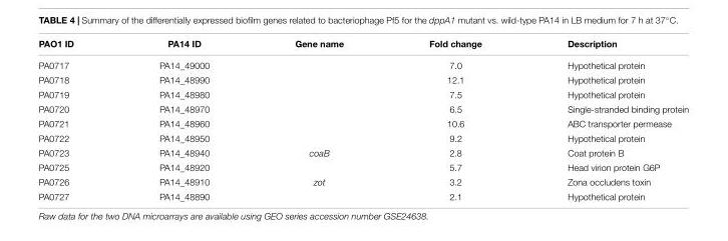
<table><thead><tr><td>PAO1 ID</td><td>PA14 ID</td><td>Gene name</td><td>Fold change</td><td>Description</td></tr></thead><tbody><tr><td>PA0717</td><td>PA14_49000</td><td></td><td>7.0</td><td>Hypothetical protein</td></tr><tr><td>PA0718</td><td>PA14_48990</td><td></td><td>12.1</td><td>Hypothetical protein</td></tr><tr><td>PA0719</td><td>PA14_48980</td><td></td><td>7.5</td><td>Hypothetical protein</td></tr><tr><td>PA0720</td><td>PA14_48970</td><td></td><td>6.5</td><td>Single-stranded binding protein</td></tr><tr><td>PA0721</td><td>PA14_48960</td><td></td><td>10.6</td><td>ABC transporter permease</td></tr><tr><td>PA0722</td><td>PA14_48950</td><td></td><td>9.2</td><td>Hypothetical protein</td></tr><tr><td>PA0723</td><td>PA14_48940</td><td>coaB</td><td>2.8</td><td>Coat protein B</td></tr><tr><td>PA0725</td><td>PA14_48920</td><td></td><td>5.7</td><td>Head virion protein G6P</td></tr><tr><td>PA0726</td><td>PA14_48910</td><td>zot</td><td>3.2</td><td>Zona occludens toxin</td></tr><tr><td>PA0727</td><td>PA14_48890</td><td></td><td>2.1</td><td>Hypothetical protein</td></tr></tbody></table>